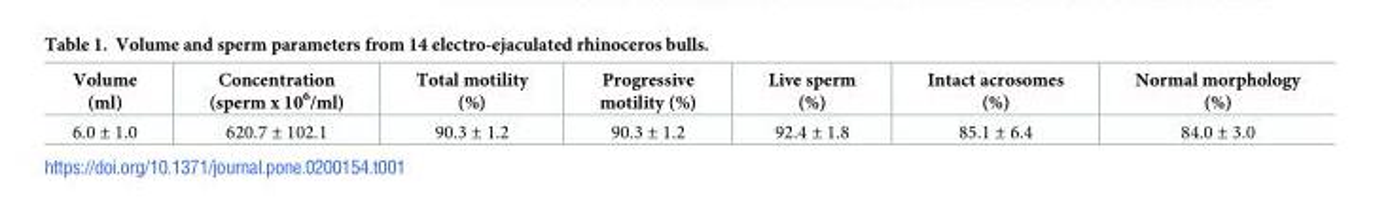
<table><thead><tr><td>Volume (ml)</td><td>Concentration (sperm x 10<sup>6</sup>/ml)</td><td>Total motility (%)</td><td>Progressive motility (%)</td><td>Live sperm (%)</td><td>Intact acrosomes (%)</td><td>Normal morphology (%)</td></tr></thead><tbody><tr><td>6.0 ± 1.0</td><td>620.7 ± 102.1</td><td>90.3 ± 1.2</td><td>90.3 ± 1.2</td><td>92.4 ± 1.8</td><td>85.1 ± 6.4</td><td>84.0 ± 3.0</td></tr></tbody></table>